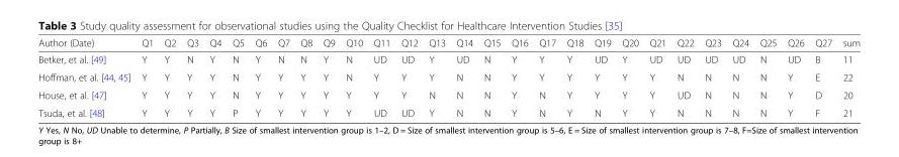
<table><thead><tr><td>Author (Date)</td><td>Q1</td><td>Q2</td><td>Q3</td><td>Q4</td><td>Q5</td><td>Q6</td><td>Q7</td><td>Q8</td><td>Q9</td><td>Q10</td><td>Q11</td><td>Q12</td><td>Q13</td><td>Q14</td><td>Q15</td><td>Q16</td><td>Q17</td><td>Q18</td><td>Q19</td><td>Q20</td><td>Q21</td><td>Q22</td><td>Q23</td><td>Q24</td><td>Q25</td><td>Q26</td><td>Q27</td><td>sum</td></tr></thead><tbody><tr><td>Betker, et al. [49]</td><td>Y</td><td>Y</td><td>N</td><td>Y</td><td>N</td><td>Y</td><td>N</td><td>N</td><td>Y</td><td>N</td><td>UD</td><td>UD</td><td>Y</td><td>UD</td><td>N</td><td>Y</td><td>Y</td><td>Y</td><td>UD</td><td>Y</td><td>UD</td><td>UD</td><td>UD</td><td>UD</td><td>N</td><td>UD</td><td>B</td><td>11</td></tr><tr><td>Hoffman, et al. [44, 45]</td><td>Y</td><td>Y</td><td>Y</td><td>Y</td><td>N</td><td>Y</td><td>Y</td><td>Y</td><td>Y</td><td>N</td><td>Y</td><td>Y</td><td>Y</td><td>N</td><td>N</td><td>Y</td><td>Y</td><td>Y</td><td>Y</td><td>Y</td><td>Y</td><td>N</td><td>N</td><td>N</td><td>N</td><td>Y</td><td>E</td><td>22</td></tr><tr><td>House, et al. [47]</td><td>Y</td><td>Y</td><td>Y</td><td>Y</td><td>N</td><td>Y</td><td>Y</td><td>Y</td><td>Y</td><td>Y</td><td>Y</td><td>Y</td><td>N</td><td>N</td><td>N</td><td>Y</td><td>N</td><td>Y</td><td>Y</td><td>Y</td><td>Y</td><td>UD</td><td>N</td><td>N</td><td>N</td><td>Y</td><td>D</td><td>20</td></tr><tr><td>Tsuda, et al. [48]</td><td>Y</td><td>Y</td><td>Y</td><td>Y</td><td>P</td><td>Y</td><td>Y</td><td>Y</td><td>Y</td><td>Y</td><td>UD</td><td>UD</td><td>Y</td><td>N</td><td>N</td><td>Y</td><td>N</td><td>Y</td><td>N</td><td>Y</td><td>Y</td><td>N</td><td>N</td><td>N</td><td>N</td><td>Y</td><td>F</td><td>21</td></tr></tbody></table>